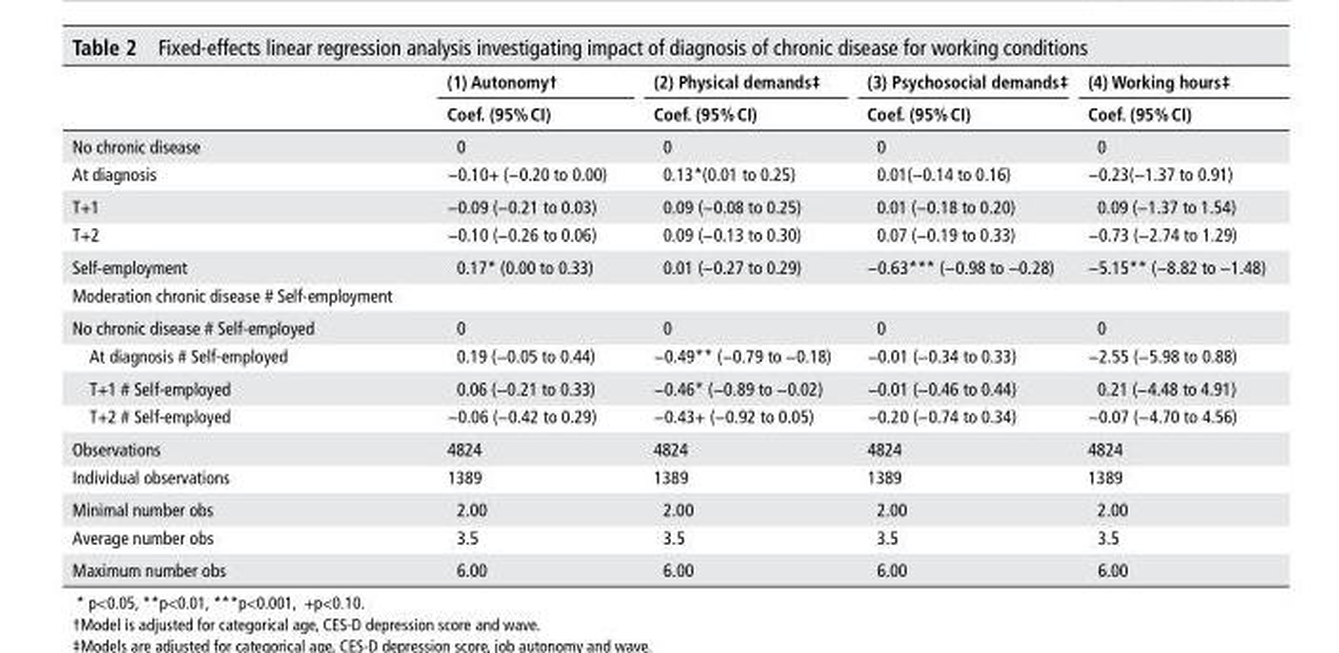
<table><thead><tr><td rowspan="2"></td><td rowspan="2">(1) Autonomy† Coef. (95% CI)</td><td rowspan="2">(2) Physical demands‡ Coef. (95% CI)</td><td rowspan="2">(3) Psychosocial demands‡ Coef. (95% CI)</td><td rowspan="2">(4) Working hours‡ Coef. (95% CI)</td></tr><tr></tr></thead><tbody><tr><td>No chronic disease</td><td>0</td><td>0</td><td>0</td><td>0</td></tr><tr><td>At diagnosis</td><td>−0.10+ (−0.20 to 0.00)</td><td>0.13*(0.01 to 0.25)</td><td>0.01(−0.14 to 0.16)</td><td>−0.23(−1.37 to 0.91)</td></tr><tr><td>T+1</td><td>−0.09 (−0.21 to 0.03)</td><td>0.09 (−0.08 to 0.25)</td><td>0.01 (−0.18 to 0.20)</td><td>0.09 (−1.37 to 1.54)</td></tr><tr><td>T+2</td><td>−0.10 (−0.26 to 0.06)</td><td>0.09 (−0.13 to 0.30)</td><td>0.07 (−0.19 to 0.33)</td><td>−0.73 (−2.74 to 1.29)</td></tr><tr><td>Self-employment</td><td>0.17* (0.00 to 0.33)</td><td>0.01 (−0.27 to 0.29)</td><td>−0.63*** (−0.98 to −0.28)</td><td>−5.15** (−8.82 to −1.48)</td></tr><tr><td colspan="5">Moderation chronic disease # Self-employment</td></tr><tr><td>No chronic disease # Self-employed</td><td>0</td><td>0</td><td>0</td><td>0</td></tr><tr><td>At diagnosis # Self-employed</td><td>0.19 (−0.05 to 0.44)</td><td>−0.49** (−0.79 to −0.18)</td><td>−0.01 (−0.34 to 0.33)</td><td>−2.55 (−5.98 to 0.88)</td></tr><tr><td>T+1 # Self-employed</td><td>0.06 (−0.21 to 0.33)</td><td>−0.46* (−0.89 to −0.02)</td><td>−0.01 (−0.46 to 0.44)</td><td>0.21 (−4.48 to 4.91)</td></tr><tr><td>T+2 # Self-employed</td><td>−0.06 (−0.42 to 0.29)</td><td>−0.43+ (−0.92 to 0.05)</td><td>−0.20 (−0.74 to 0.34)</td><td>−0.07 (−4.70 to 4.56)</td></tr><tr><td>Observations</td><td>4824</td><td>4824</td><td>4824</td><td>4824</td></tr><tr><td>Individual observations</td><td>1389</td><td>1389</td><td>1389</td><td>1389</td></tr><tr><td>Minimal number obs</td><td>2.00</td><td>2.00</td><td>2.00</td><td>2.00</td></tr><tr><td>Average number obs</td><td>3.5</td><td>3.5</td><td>3.5</td><td>3.5</td></tr><tr><td>Maximum number obs</td><td>6.00</td><td>6.00</td><td>6.00</td><td>6.00</td></tr></tbody></table>